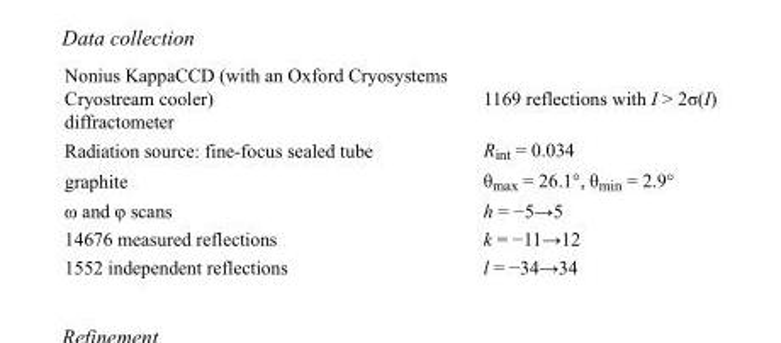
<table><tbody><tr><td>Nonius KappaCCD (with an Oxford Cryosystems Cryostream cooler) diffractometer</td><td>1169 reflections with I &gt; 2σ(I)</td></tr><tr><td>Radiation source: fine-focus sealed tube</td><td>R<sub>int</sub> = 0.034</td></tr><tr><td>graphite</td><td>θ<sub>max</sub> = 26.1°, θ<sub>min</sub> = 2.9°</td></tr><tr><td>ω and φ scans</td><td>h = −5→5</td></tr><tr><td>14676 measured reflections</td><td>k = −11→12</td></tr><tr><td>1552 independent reflections</td><td>l = −34→34</td></tr></tbody></table>